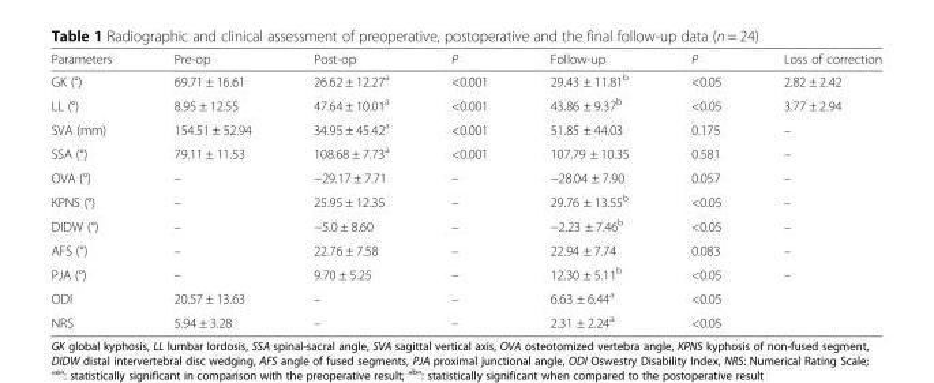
<table><thead><tr><td>Parameters</td><td>Pre-op</td><td>Post-op</td><td>P</td><td>Follow-up</td><td>P</td><td>Loss of correction</td></tr></thead><tbody><tr><td>GK (°)</td><td>69.71 ± 16.61</td><td>26.62 ± 12.27<sup>a</sup></td><td>&lt;0.001</td><td>29.43 ± 11.81<sup>b</sup></td><td>&lt;0.05</td><td>2.82 ± 2.42</td></tr><tr><td>LL (°)</td><td>8.95 ± 12.55</td><td>47.64 ± 10.01<sup>a</sup></td><td>&lt;0.001</td><td>43.86 ± 9.37<sup>b</sup></td><td>&lt;0.05</td><td>3.77 ± 2.94</td></tr><tr><td>SVA (mm)</td><td>154.51 ± 52.94</td><td>34.95 ± 45.42<sup>a</sup></td><td>&lt;0.001</td><td>51.85 ± 44.03</td><td>0.175</td><td>–</td></tr><tr><td>SSA (°)</td><td>79.11 ± 11.53</td><td>108.68 ± 7.73<sup>a</sup></td><td>&lt;0.001</td><td>107.79 ± 10.35</td><td>0.581</td><td>–</td></tr><tr><td>OVA (°)</td><td>–</td><td>−29.17 ± 7.71</td><td>–</td><td>−28.04 ± 7.90</td><td>0.057</td><td>–</td></tr><tr><td>KPNS (°)</td><td>–</td><td>25.95 ± 12.35</td><td>–</td><td>29.76 ± 13.55<sup>b</sup></td><td>&lt;0.05</td><td>–</td></tr><tr><td>DIDW (°)</td><td>–</td><td>−5.0 ± 8.60</td><td>–</td><td>−2.23 ± 7.46<sup>b</sup></td><td>&lt;0.05</td><td>–</td></tr><tr><td>AFS (°)</td><td>–</td><td>22.76 ± 7.58</td><td>–</td><td>22.94 ± 7.74</td><td>0.083</td><td>–</td></tr><tr><td>PJA (°)</td><td>–</td><td>9.70 ± 5.25</td><td>–</td><td>12.30 ± 5.11<sup>b</sup></td><td>&lt;0.05</td><td>–</td></tr><tr><td>ODI</td><td>20.57 ± 13.63</td><td>–</td><td>–</td><td>6.63 ± 6.44<sup>a</sup></td><td>&lt;0.05</td><td></td></tr><tr><td>NRS</td><td>5.94 ± 3.28</td><td>–</td><td>–</td><td>2.31 ± 2.24<sup>a</sup></td><td>&lt;0.05</td><td></td></tr></tbody></table>